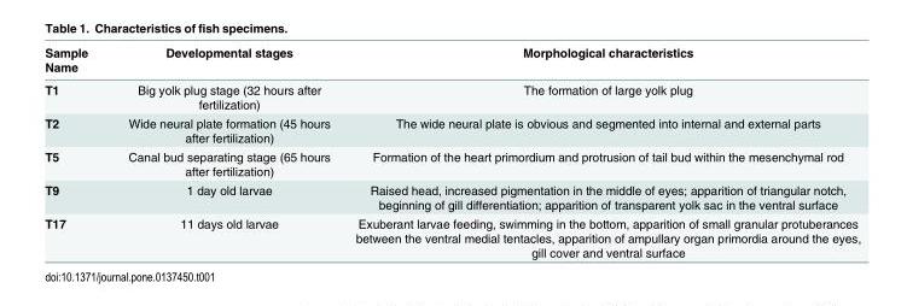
<table><thead><tr><td>Sample Name</td><td>Developmental stages</td><td>Morphological characteristics</td></tr></thead><tbody><tr><td>T1</td><td>Big yolk plug stage (32 hours after fertilization)</td><td>The formation of large yolk plug</td></tr><tr><td>T2</td><td>Wide neural plate formation (45 hours after fertilization)</td><td>The wide neural plate is obvious and segmented into internal and external parts</td></tr><tr><td>T5</td><td>Canal bud separating stage (65 hours after fertilization)</td><td>Formation of the heart primordium and protrusion of tail bud within the mesenchymal rod</td></tr><tr><td>T9</td><td>1 day old larvae</td><td>Raised head, increased pigmentation in the middle of eyes; apparition of triangular notch, beginning of gill differentiation; apparition of transparent yolk sac in the ventral surface</td></tr><tr><td>T17</td><td>11 days old larvae</td><td>Exuberant larvae feeding, swimming in the bottom, apparition of small granular protuberances between the ventral medial tentacles, apparition of ampullary organ primordia around the eyes, gill cover and ventral surface</td></tr></tbody></table>